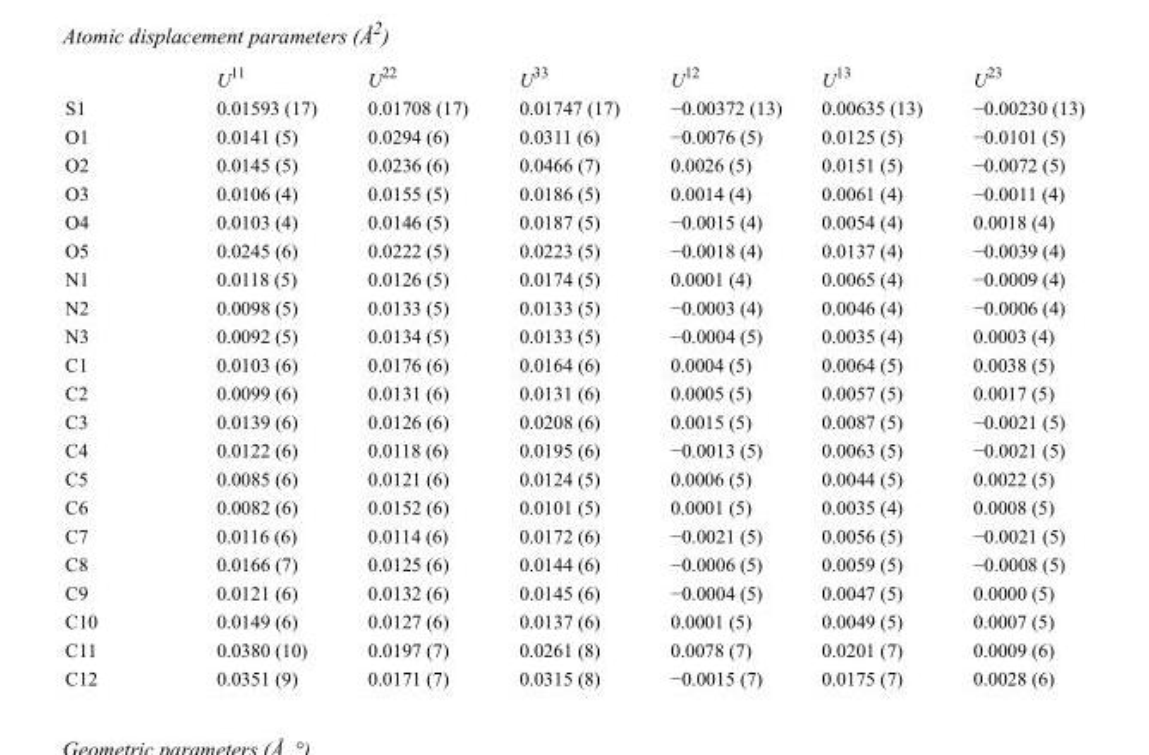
<table><thead><tr><td></td><td>U<sup>11</sup></td><td>U<sup>22</sup></td><td>U<sup>33</sup></td><td>U<sup>12</sup></td><td>U<sup>13</sup></td><td>U<sup>23</sup></td></tr></thead><tbody><tr><td>S1</td><td>0.01593 (17)</td><td>0.01708 (17)</td><td>0.01747 (17)</td><td>−0.00372 (13)</td><td>0.00635 (13)</td><td>−0.00230 (13)</td></tr><tr><td>O1</td><td>0.0141 (5)</td><td>0.0294 (6)</td><td>0.0311 (6)</td><td>−0.0076 (5)</td><td>0.0125 (5)</td><td>−0.0101 (5)</td></tr><tr><td>O2</td><td>0.0145 (5)</td><td>0.0236 (6)</td><td>0.0466 (7)</td><td>0.0026 (5)</td><td>0.0151 (5)</td><td>−0.0072 (5)</td></tr><tr><td>O3</td><td>0.0106 (4)</td><td>0.0155 (5)</td><td>0.0186 (5)</td><td>0.0014 (4)</td><td>0.0061 (4)</td><td>−0.0011 (4)</td></tr><tr><td>O4</td><td>0.0103 (4)</td><td>0.0146 (5)</td><td>0.0187 (5)</td><td>−0.0015 (4)</td><td>0.0054 (4)</td><td>0.0018 (4)</td></tr><tr><td>O5</td><td>0.0245 (6)</td><td>0.0222 (5)</td><td>0.0223 (5)</td><td>−0.0018 (4)</td><td>0.0137 (4)</td><td>−0.0039 (4)</td></tr><tr><td>N1</td><td>0.0118 (5)</td><td>0.0126 (5)</td><td>0.0174 (5)</td><td>0.0001 (4)</td><td>0.0065 (4)</td><td>−0.0009 (4)</td></tr><tr><td>N2</td><td>0.0098 (5)</td><td>0.0133 (5)</td><td>0.0133 (5)</td><td>−0.0003 (4)</td><td>0.0046 (4)</td><td>−0.0006 (4)</td></tr><tr><td>N3</td><td>0.0092 (5)</td><td>0.0134 (5)</td><td>0.0133 (5)</td><td>−0.0004 (5)</td><td>0.0035 (4)</td><td>0.0003 (4)</td></tr><tr><td>C1</td><td>0.0103 (6)</td><td>0.0176 (6)</td><td>0.0164 (6)</td><td>0.0004 (5)</td><td>0.0064 (5)</td><td>0.0038 (5)</td></tr><tr><td>C2</td><td>0.0099 (6)</td><td>0.0131 (6)</td><td>0.0131 (6)</td><td>0.0005 (5)</td><td>0.0057 (5)</td><td>0.0017 (5)</td></tr><tr><td>C3</td><td>0.0139 (6)</td><td>0.0126 (6)</td><td>0.0208 (6)</td><td>0.0015 (5)</td><td>0.0087 (5)</td><td>−0.0021 (5)</td></tr><tr><td>C4</td><td>0.0122 (6)</td><td>0.0118 (6)</td><td>0.0195 (6)</td><td>−0.0013 (5)</td><td>0.0063 (5)</td><td>−0.0021 (5)</td></tr><tr><td>C5</td><td>0.0085 (6)</td><td>0.0121 (6)</td><td>0.0124 (5)</td><td>0.0006 (5)</td><td>0.0044 (5)</td><td>0.0022 (5)</td></tr><tr><td>C6</td><td>0.0082 (6)</td><td>0.0152 (6)</td><td>0.0101 (5)</td><td>0.0001 (5)</td><td>0.0035 (4)</td><td>0.0008 (5)</td></tr><tr><td>C7</td><td>0.0116 (6)</td><td>0.0114 (6)</td><td>0.0172 (6)</td><td>−0.0021 (5)</td><td>0.0056 (5)</td><td>−0.0021 (5)</td></tr><tr><td>C8</td><td>0.0166 (7)</td><td>0.0125 (6)</td><td>0.0144 (6)</td><td>−0.0006 (5)</td><td>0.0059 (5)</td><td>−0.0008 (5)</td></tr><tr><td>C9</td><td>0.0121 (6)</td><td>0.0132 (6)</td><td>0.0145 (6)</td><td>−0.0004 (5)</td><td>0.0047 (5)</td><td>0.0000 (5)</td></tr><tr><td>C10</td><td>0.0149 (6)</td><td>0.0127 (6)</td><td>0.0137 (6)</td><td>0.0001 (5)</td><td>0.0049 (5)</td><td>0.0007 (5)</td></tr><tr><td>C11</td><td>0.0380 (10)</td><td>0.0197 (7)</td><td>0.0261 (8)</td><td>0.0078 (7)</td><td>0.0201 (7)</td><td>0.0009 (6)</td></tr><tr><td>C12</td><td>0.0351 (9)</td><td>0.0171 (7)</td><td>0.0315 (8)</td><td>−0.0015 (7)</td><td>0.0175 (7)</td><td>0.0028 (6)</td></tr></tbody></table>